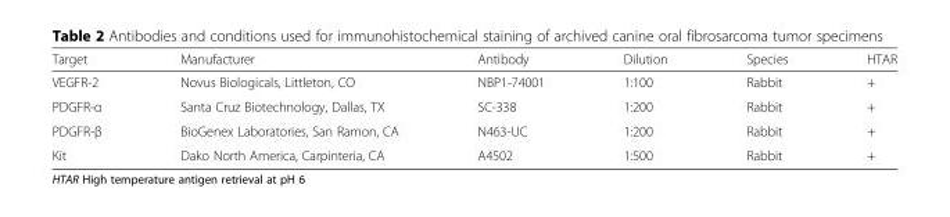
<table><thead><tr><td>Target</td><td>Manufacturer</td><td>Antibody</td><td>Dilution</td><td>Species</td><td>HTAR</td></tr></thead><tbody><tr><td>VEGFR-2</td><td>Novus Biologicals, Littleton, CO</td><td>NBP1-74001</td><td>1:100</td><td>Rabbit</td><td>+</td></tr><tr><td>PDGFR-α</td><td>Santa Cruz Biotechnology, Dallas, TX</td><td>SC-338</td><td>1:200</td><td>Rabbit</td><td>+</td></tr><tr><td>PDGFR-β</td><td>BioGenex Laboratories, San Ramon, CA</td><td>N463-UC</td><td>1:200</td><td>Rabbit</td><td>+</td></tr><tr><td>Kit</td><td>Dako North America, Carpinteria, CA</td><td>A4502</td><td>1:500</td><td>Rabbit</td><td>+</td></tr></tbody></table>